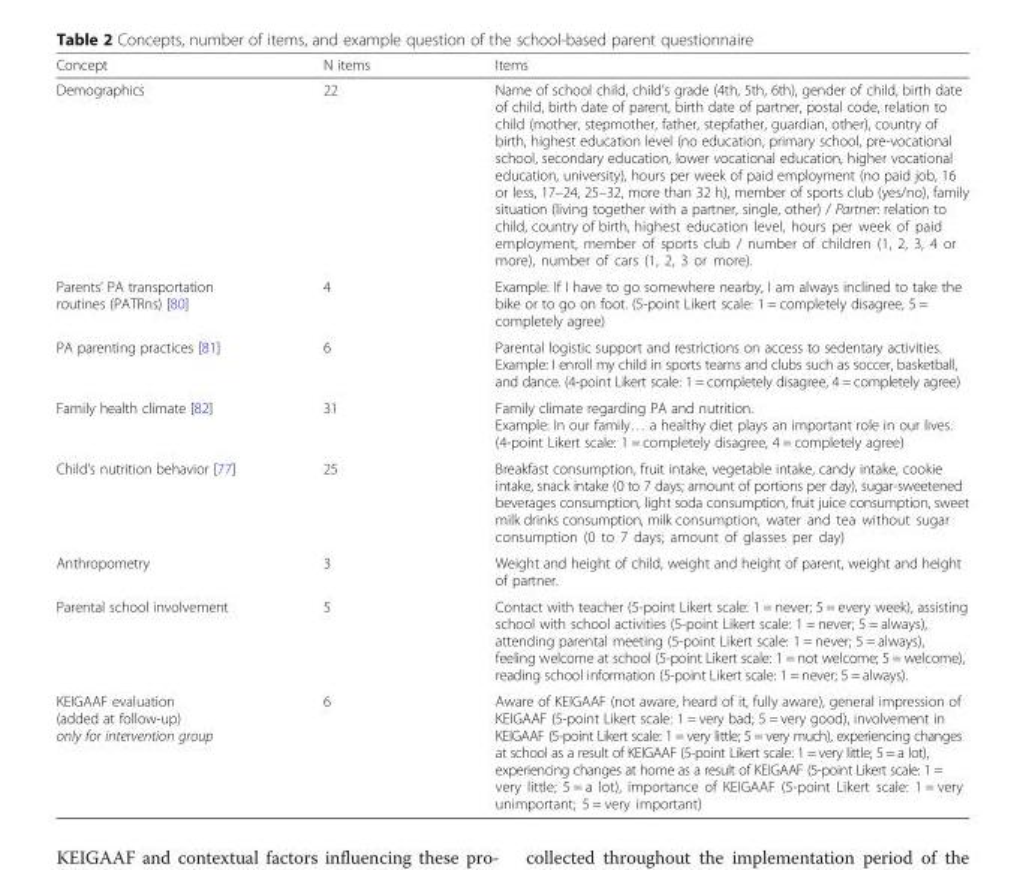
<table><thead><tr><td>Concept</td><td>N items</td><td>Items</td></tr></thead><tbody><tr><td>Demographics</td><td>22</td><td>Name of school child, child’s grade (4th, 5th, 6th), gender of child, birth date of child, birth date of parent, birth date of partner, postal code, relation to child (mother, stepmother, father, stepfather, guardian, other), country of birth, highest education level (no education, primary school, pre-vocational school, secondary education, lower vocational education, higher vocational education, university), hours per week of paid employment (no paid job, 16 or less, 17–24, 25–32, more than 32 h), member of sports club (yes/no), family situation (living together with a partner, single, other) / Partner: relation to child, country of birth, highest education level, hours per week of paid employment, member of sports club / number of children (1, 2, 3, 4 or more), number of cars (1, 2, 3 or more).</td></tr><tr><td>Parents’ PA transportation routines (PATRns) [80]</td><td>4</td><td>Example: If I have to go somewhere nearby, I am always inclined to take the bike or to go on foot. (5-point Likert scale: 1 = completely disagree, 5 = completely agree)</td></tr><tr><td>PA parenting practices [81]</td><td>6</td><td>Parental logistic support and restrictions on access to sedentary activities. Example: I enroll my child in sports teams and clubs such as soccer, basketball, and dance. (4-point Likert scale: 1 = completely disagree, 4 = completely agree)</td></tr><tr><td>Family health climate [82]</td><td>31</td><td>Family climate regarding PA and nutrition. Example: In our family… a healthy diet plays an important role in our lives. (4-point Likert scale: 1 = completely disagree, 4 = completely agree)</td></tr><tr><td>Child’s nutrition behavior [77]</td><td>25</td><td>Breakfast consumption, fruit intake, vegetable intake, candy intake, cookie intake, snack intake (0 to 7 days; amount of portions per day), sugar-sweetened beverages consumption, light soda consumption, fruit juice consumption, sweet milk drinks consumption, milk consumption, water and tea without sugar consumption (0 to 7 days; amount of glasses per day)</td></tr><tr><td>Anthropometry</td><td>3</td><td>Weight and height of child, weight and height of parent, weight and height of partner.</td></tr><tr><td>Parental school involvement</td><td>5</td><td>Contact with teacher (5-point Likert scale: 1 = never; 5 = every week), assisting school with school activities (5-point Likert scale: 1 = never; 5 = always), attending parental meeting (5-point Likert scale: 1 = never; 5 = always), feeling welcome at school (5-point Likert scale: 1 = not welcome; 5 = welcome), reading school information (5-point Likert scale: 1 = never; 5 = always).</td></tr><tr><td>KEIGAAF evaluation (added at follow-up) only for intervention group</td><td>6</td><td>Aware of KEIGAAF (not aware, heard of it, fully aware), general impression of KEIGAAF (5-point Likert scale: 1 = very bad; 5 = very good), involvement in KEIGAAF (5-point Likert scale: 1 = very little; 5 = very much), experiencing changes at school as a result of KEIGAAF (5-point Likert scale: 1 = very little; 5 = a lot), experiencing changes at home as a result of KEIGAAF (5-point Likert scale: 1 = very little; 5 = a lot), importance of KEIGAAF (5-point Likert scale: 1 = very unimportant; 5 = very important)</td></tr></tbody></table>